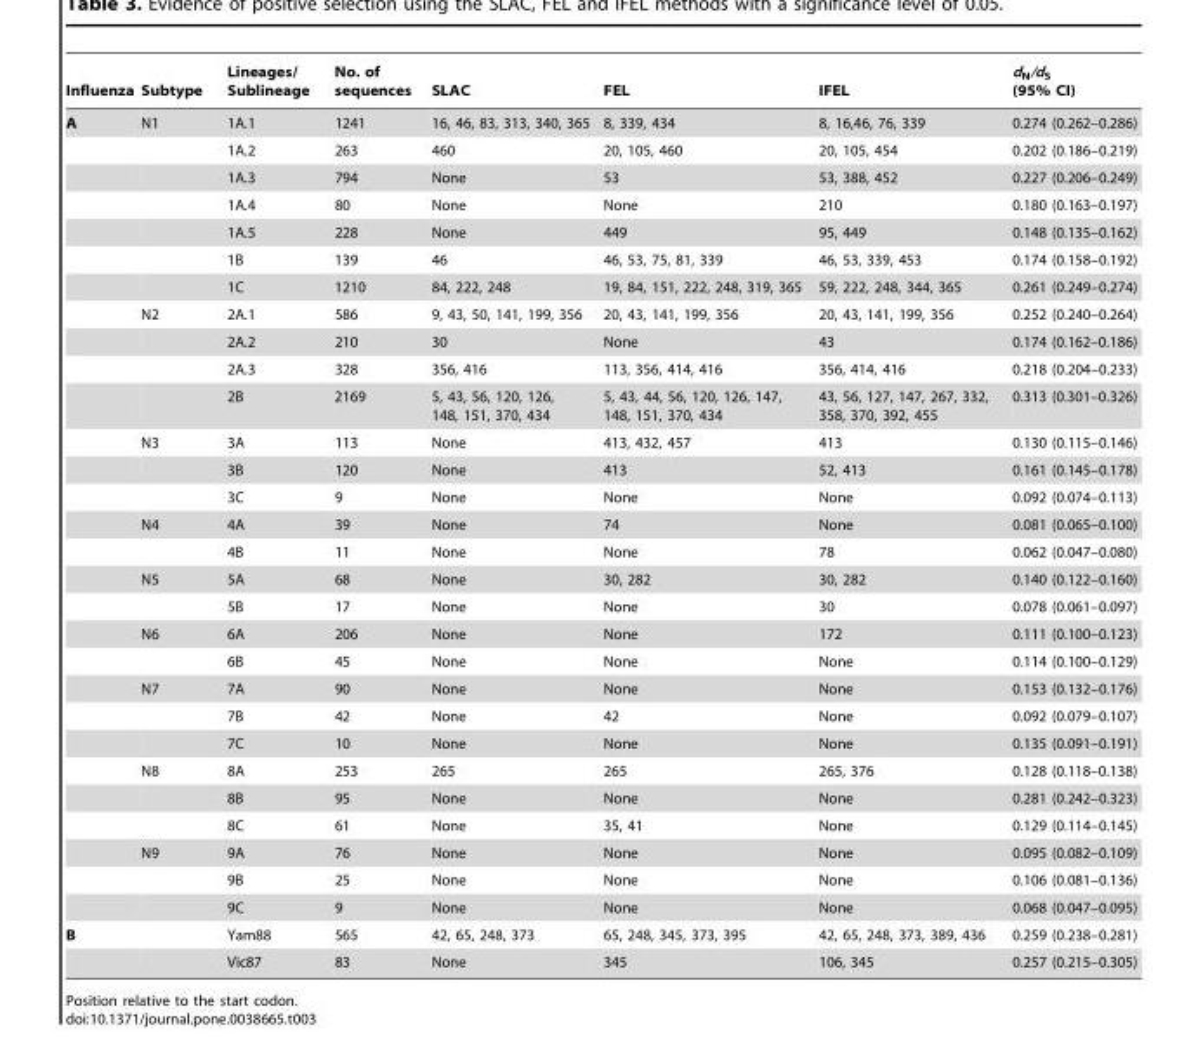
<table><thead><tr><td>Influenza</td><td>Subtype</td><td>Lineages/ Sublineage</td><td>No. of sequences</td><td>SLAC</td><td>FEL</td><td>IFEL</td><td>d<sub>N</sub>/d<sub>S</sub> (95% CI)</td></tr></thead><tbody><tr><td rowspan="29">A</td><td>N1</td><td>1A.1</td><td>1241</td><td>16, 46, 83, 313, 340, 365</td><td>8, 339, 434</td><td>8, 16,46, 76, 339</td><td>0.274 (0.262–0.286)</td></tr><tr><td></td><td>1A.2</td><td>263</td><td>460</td><td>20, 105, 460</td><td>20, 105, 454</td><td>0.202 (0.186–0.219)</td></tr><tr><td></td><td>1A.3</td><td>794</td><td>None</td><td>53</td><td>53, 388, 452</td><td>0.227 (0.206–0.249)</td></tr><tr><td></td><td>1A.4</td><td>80</td><td>None</td><td>None</td><td>210</td><td>0.180 (0.163–0.197)</td></tr><tr><td></td><td>1A.5</td><td>228</td><td>None</td><td>449</td><td>95, 449</td><td>0.148 (0.135–0.162)</td></tr><tr><td></td><td>1B</td><td>139</td><td>46</td><td>46, 53, 75, 81, 339</td><td>46, 53, 339, 453</td><td>0.174 (0.158–0.192)</td></tr><tr><td></td><td>1C</td><td>1210</td><td>84, 222, 248</td><td>19, 84, 151, 222, 248, 319, 365</td><td>59, 222, 248, 344, 365</td><td>0.261 (0.249–0.274)</td></tr><tr><td>N2</td><td>2A.1</td><td>586</td><td>9, 43, 50, 141, 199, 356</td><td>20, 43, 141, 199, 356</td><td>20, 43, 141, 199, 356</td><td>0.252 (0.240–0.264)</td></tr><tr><td></td><td>2A.2</td><td>210</td><td>30</td><td>None</td><td>43</td><td>0.174 (0.162–0.186)</td></tr><tr><td></td><td>2A.3</td><td>328</td><td>356, 416</td><td>113, 356, 414, 416</td><td>356, 414, 416</td><td>0.218 (0.204–0.233)</td></tr><tr><td></td><td>2B</td><td>2169</td><td>5, 43, 56, 120, 126, 148, 151, 370, 434</td><td>5, 43, 44, 56, 120, 126, 147, 148, 151, 370, 434</td><td>43, 56, 127, 147, 267, 332, 358, 370, 392, 455</td><td>0.313 (0.301–0.326)</td></tr><tr><td>N3</td><td>3A</td><td>113</td><td>None</td><td>413, 432, 457</td><td>413</td><td>0.130 (0.115–0.146)</td></tr><tr><td></td><td>3B</td><td>120</td><td>None</td><td>413</td><td>52, 413</td><td>0.161 (0.145–0.178)</td></tr><tr><td></td><td>3C</td><td>9</td><td>None</td><td>None</td><td>None</td><td>0.092 (0.074–0.113)</td></tr><tr><td>N4</td><td>4A</td><td>39</td><td>None</td><td>74</td><td>None</td><td>0.081 (0.065–0.100)</td></tr><tr><td></td><td>4B</td><td>11</td><td>None</td><td>None</td><td>78</td><td>0.062 (0.047–0.080)</td></tr><tr><td>N5</td><td>5A</td><td>68</td><td>None</td><td>30, 282</td><td>30, 282</td><td>0.140 (0.122–0.160)</td></tr><tr><td></td><td>5B</td><td>17</td><td>None</td><td>None</td><td>30</td><td>0.078 (0.061–0.097)</td></tr><tr><td>N6</td><td>6A</td><td>206</td><td>None</td><td>None</td><td>172</td><td>0.111 (0.100–0.123)</td></tr><tr><td></td><td>6B</td><td>45</td><td>None</td><td>None</td><td>None</td><td>0.114 (0.100–0.129)</td></tr><tr><td>N7</td><td>7A</td><td>90</td><td>None</td><td>None</td><td>None</td><td>0.153 (0.132–0.176)</td></tr><tr><td></td><td>7B</td><td>42</td><td>None</td><td>42</td><td>None</td><td>0.092 (0.079–0.107)</td></tr><tr><td></td><td>7C</td><td>10</td><td>None</td><td>None</td><td>None</td><td>0.135 (0.091–0.191)</td></tr><tr><td>N8</td><td>8A</td><td>253</td><td>265</td><td>265</td><td>265, 376</td><td>0.128 (0.118–0.138)</td></tr><tr><td></td><td>8B</td><td>95</td><td>None</td><td>None</td><td>None</td><td>0.281 (0.242–0.323)</td></tr><tr><td></td><td>8C</td><td>61</td><td>None</td><td>35, 41</td><td>None</td><td>0.129 (0.114–0.145)</td></tr><tr><td>N9</td><td>9A</td><td>76</td><td>None</td><td>None</td><td>None</td><td>0.095 (0.082–0.109)</td></tr><tr><td></td><td>9B</td><td>25</td><td>None</td><td>None</td><td>None</td><td>0.106 (0.081–0.136)</td></tr><tr><td></td><td>9C</td><td>9</td><td>None</td><td>None</td><td>None</td><td>0.068 (0.047–0.095)</td></tr><tr><td rowspan="2">B</td><td></td><td>Yam88</td><td>565</td><td>42, 65, 248, 373</td><td>65, 248, 345, 373, 395</td><td>42, 65, 248, 373, 389, 436</td><td>0.259 (0.238–0.281)</td></tr><tr><td></td><td>Vic87</td><td>83</td><td>None</td><td>345</td><td>106, 345</td><td>0.257 (0.215–0.305)</td></tr></tbody></table>